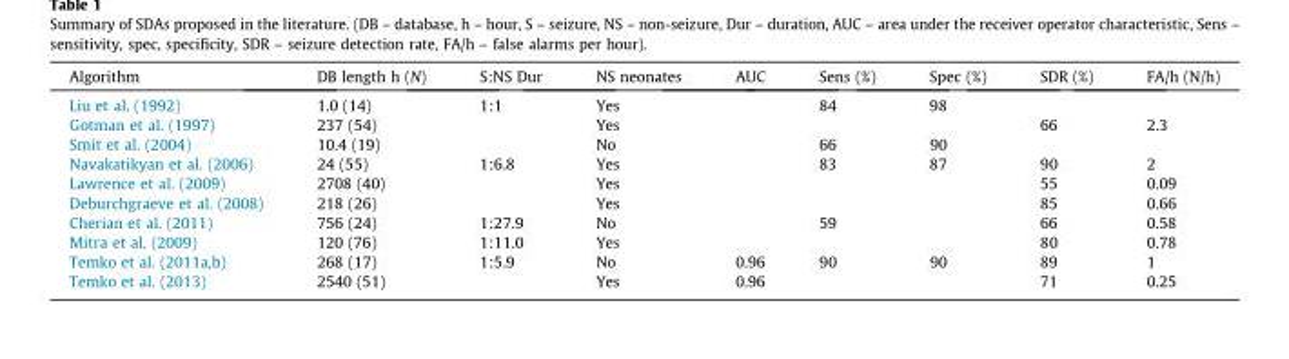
<table><thead><tr><td>Algorithm</td><td>DB length h (N)</td><td>S:NS Dur</td><td>NS neonates</td><td>AUC</td><td>Sens (%)</td><td>Spec (%)</td><td>SDR (%)</td><td>FA/h (N/h)</td></tr></thead><tbody><tr><td>Liu et al. (1992)</td><td>1.0 (14)</td><td>1:1</td><td>Yes</td><td></td><td>84</td><td>98</td><td></td><td></td></tr><tr><td>Gotman et al. (1997)</td><td>237 (54)</td><td></td><td>Yes</td><td></td><td></td><td></td><td>66</td><td>2.3</td></tr><tr><td>Smit et al. (2004)</td><td>10.4 (19)</td><td></td><td>No</td><td></td><td>66</td><td>90</td><td></td><td></td></tr><tr><td>Navakatikyan et al. (2006)</td><td>24 (55)</td><td>1:6.8</td><td>Yes</td><td></td><td>83</td><td>87</td><td>90</td><td>2</td></tr><tr><td>Lawrence et al. (2009)</td><td>2708 (40)</td><td></td><td>Yes</td><td></td><td></td><td></td><td>55</td><td>0.09</td></tr><tr><td>Deburchgraeve et al. (2008)</td><td>218 (26)</td><td></td><td>Yes</td><td></td><td></td><td></td><td>85</td><td>0.66</td></tr><tr><td>Cherian et al. (2011)</td><td>756 (24)</td><td>1:27.9</td><td>No</td><td></td><td>59</td><td></td><td>66</td><td>0.58</td></tr><tr><td>Mitra et al. (2009)</td><td>120 (76)</td><td>1:11.0</td><td>Yes</td><td></td><td></td><td></td><td>80</td><td>0.78</td></tr><tr><td>Temko et al. (2011a,b)</td><td>268 (17)</td><td>1:5.9</td><td>No</td><td>0.96</td><td>90</td><td>90</td><td>89</td><td>1</td></tr><tr><td>Temko et al. (2013)</td><td>2540 (51)</td><td></td><td>Yes</td><td>0.96</td><td></td><td></td><td>71</td><td>0.25</td></tr></tbody></table>